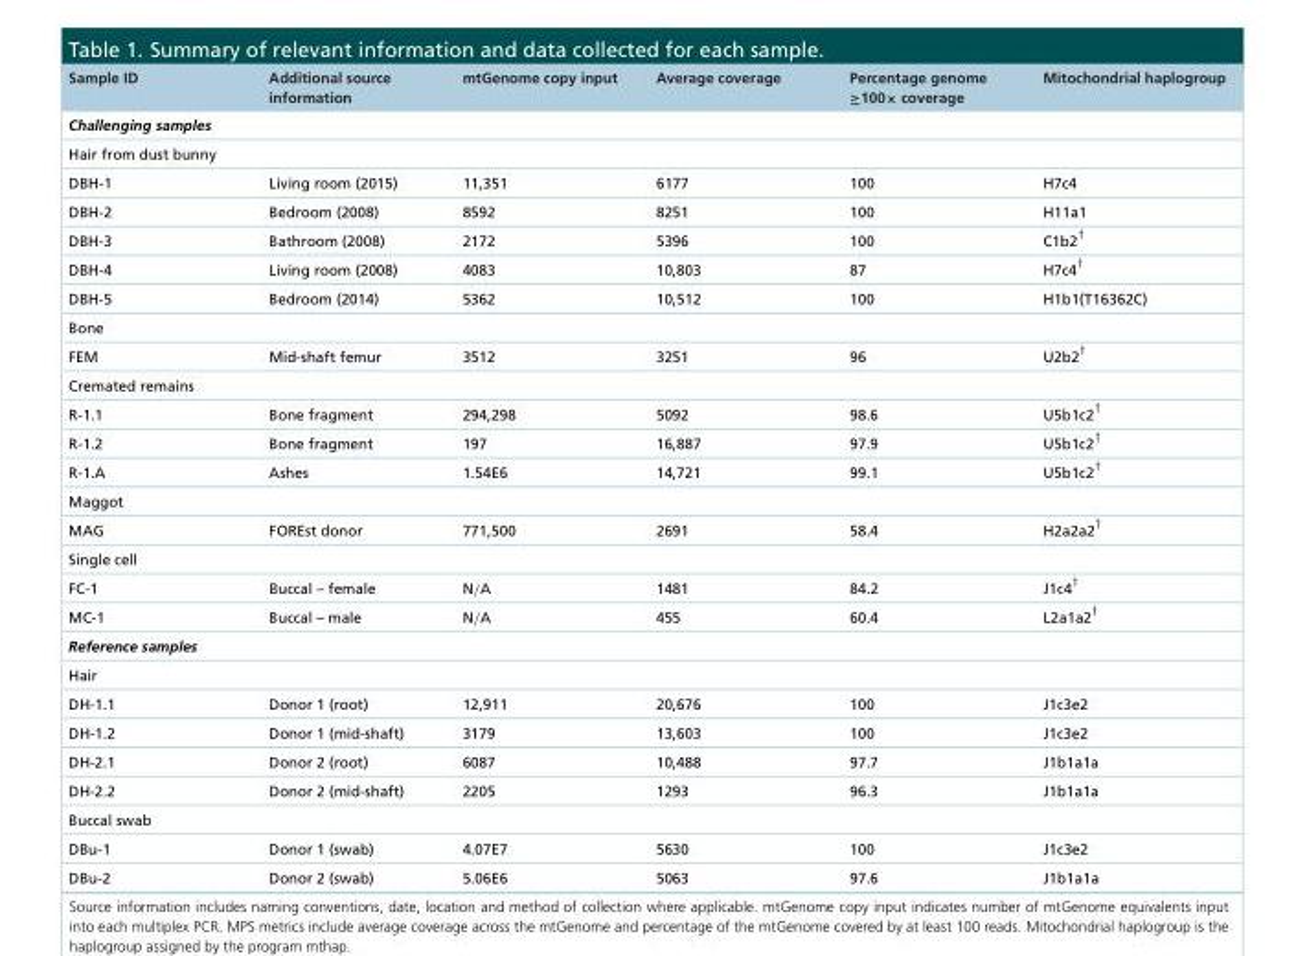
<table><thead><tr><td>Sample ID</td><td>Additional source information</td><td>mtGenome copy input</td><td>Average coverage</td><td>Percentage genome ≥100× coverage</td><td>Mitochondrial haplogroup</td></tr></thead><tbody><tr><td colspan="6">Challenging samples</td></tr><tr><td colspan="6">Hair from dust bunny</td></tr><tr><td>DBH-1</td><td>Living room (2015)</td><td>11,351</td><td>6177</td><td>100</td><td>H7c4</td></tr><tr><td>DBH-2</td><td>Bedroom (2008)</td><td>8592</td><td>8251</td><td>100</td><td>H11a1</td></tr><tr><td>DBH-3</td><td>Bathroom (2008)</td><td>2172</td><td>5396</td><td>100</td><td>C1b2<sup>†</sup></td></tr><tr><td>DBH-4</td><td>Living room (2008)</td><td>4083</td><td>10,803</td><td>87</td><td>H7c4<sup>†</sup></td></tr><tr><td>DBH-5</td><td>Bedroom (2014)</td><td>5362</td><td>10,512</td><td>100</td><td>H1b1(T16362C)</td></tr><tr><td colspan="6">Bone</td></tr><tr><td>FEM</td><td>Mid-shaft femur</td><td>3512</td><td>3251</td><td>96</td><td>U2b2<sup>†</sup></td></tr><tr><td colspan="6">Cremated remains</td></tr><tr><td>R-1.1</td><td>Bone fragment</td><td>294,298</td><td>5092</td><td>98.6</td><td>U5b1c2<sup>†</sup></td></tr><tr><td>R-1.2</td><td>Bone fragment</td><td>197</td><td>16,887</td><td>97.9</td><td>U5b1c2<sup>†</sup></td></tr><tr><td>R-1.A</td><td>Ashes</td><td>1.54E6</td><td>14,721</td><td>99.1</td><td>U5b1c2<sup>†</sup></td></tr><tr><td colspan="6">Maggot</td></tr><tr><td>MAG</td><td>FOREst donor</td><td>771,500</td><td>2691</td><td>58.4</td><td>H2a2a2<sup>†</sup></td></tr><tr><td colspan="6">Single cell</td></tr><tr><td>FC-1</td><td>Buccal – female</td><td>N/A</td><td>1481</td><td>84.2</td><td>J1c4<sup>†</sup></td></tr><tr><td>MC-1</td><td>Buccal – male</td><td>N/A</td><td>455</td><td>60.4</td><td>L2a1a2<sup>†</sup></td></tr><tr><td colspan="6">Reference samples</td></tr><tr><td colspan="6">Hair</td></tr><tr><td>DH-1.1</td><td>Donor 1 (root)</td><td>12,911</td><td>20,676</td><td>100</td><td>J1c3e2</td></tr><tr><td>DH-1.2</td><td>Donor 1 (mid-shaft)</td><td>3179</td><td>13,603</td><td>100</td><td>J1c3e2</td></tr><tr><td>DH-2.1</td><td>Donor 2 (root)</td><td>6087</td><td>10,488</td><td>97.7</td><td>J1b1a1a</td></tr><tr><td>DH-2.2</td><td>Donor 2 (mid-shaft)</td><td>2205</td><td>1293</td><td>96.3</td><td>J1b1a1a</td></tr><tr><td colspan="6">Buccal swab</td></tr><tr><td>DBu-1</td><td>Donor 1 (swab)</td><td>4.07E7</td><td>5630</td><td>100</td><td>J1c3e2</td></tr><tr><td>DBu-2</td><td>Donor 2 (swab)</td><td>5.06E6</td><td>5063</td><td>97.6</td><td>J1b1a1a</td></tr></tbody></table>